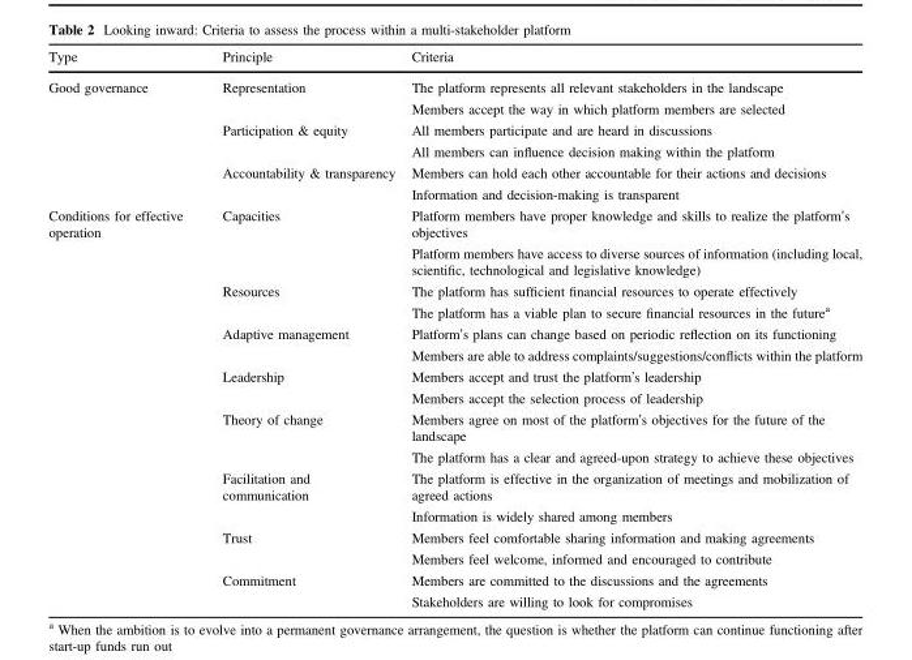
<table><thead><tr><td>Type</td><td>Principle</td><td>Criteria</td></tr></thead><tbody><tr><td rowspan="6">Good governance</td><td rowspan="2">Representation</td><td>The platform represents all relevant stakeholders in the landscape</td></tr><tr><td>Members accept the way in which platform members are selected</td></tr><tr><td rowspan="2">Participation &amp; equity</td><td>All members participate and are heard in discussions</td></tr><tr><td>All members can influence decision making within the platform</td></tr><tr><td rowspan="2">Accountability &amp; transparency</td><td>Members can hold each other accountable for their actions and decisions</td></tr><tr><td>Information and decision-making is transparent</td></tr><tr><td rowspan="16">Conditions for effective operation</td><td rowspan="2">Capacities</td><td>Platform members have proper knowledge and skills to realize the platform’s objectives</td></tr><tr><td>Platform members have access to diverse sources of information (including local, scientific, technological and legislative knowledge)</td></tr><tr><td rowspan="2">Resources</td><td>The platform has sufficient financial resources to operate effectively</td></tr><tr><td>The platform has a viable plan to secure financial resources in the future<sup>a</sup></td></tr><tr><td rowspan="2">Adaptive management</td><td>Platform’s plans can change based on periodic reflection on its functioning</td></tr><tr><td>Members are able to address complaints/suggestions/conflicts within the platform</td></tr><tr><td rowspan="2">Leadership</td><td>Members accept and trust the platform’s leadership</td></tr><tr><td>Members accept the selection process of leadership</td></tr><tr><td rowspan="2">Theory of change</td><td>Members agree on most of the platform’s objectives for the future of the landscape</td></tr><tr><td>The platform has a clear and agreed-upon strategy to achieve these objectives</td></tr><tr><td rowspan="2">Facilitation and communication</td><td>The platform is effective in the organization of meetings and mobilization of agreed actions</td></tr><tr><td>Information is widely shared among members</td></tr><tr><td rowspan="2">Trust</td><td>Members feel comfortable sharing information and making agreements</td></tr><tr><td>Members feel welcome, informed and encouraged to contribute</td></tr><tr><td rowspan="2">Commitment</td><td>Members are committed to the discussions and the agreements</td></tr><tr><td>Stakeholders are willing to look for compromises</td></tr></tbody></table>